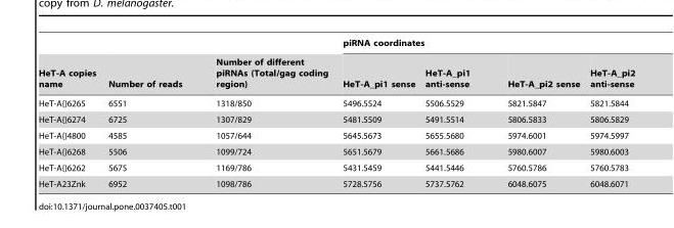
<table><thead><tr><td rowspan="2">HeT-A copies name</td><td rowspan="2">Number of reads</td><td rowspan="2">Number of different piRNAs (Total/gag coding region)</td><td colspan="4">piRNA coordinates</td></tr><tr><td>HeT-A_pi1 sense</td><td>HeT-A_pi1 anti-sense</td><td>HeT-A_pi2 sense</td><td>HeT-A_pi2 anti-sense</td></tr></thead><tbody><tr><td>HeT-A{}6265</td><td>6551</td><td>1318/850</td><td>5496.5524</td><td>5506.5529</td><td>5821.5847</td><td>5821.5844</td></tr><tr><td>HeT-A{}6274</td><td>6725</td><td>1307/829</td><td>5481.5509</td><td>5491.5514</td><td>5806.5833</td><td>5806.5829</td></tr><tr><td>HeT-A{}4800</td><td>4585</td><td>1057/644</td><td>5645.5673</td><td>5655.5680</td><td>5974.6001</td><td>5974.5997</td></tr><tr><td>HeT-A{}6268</td><td>5506</td><td>1099/724</td><td>5651.5679</td><td>5661.5686</td><td>5980.6007</td><td>5980.6003</td></tr><tr><td>HeT-A{}6262</td><td>5675</td><td>1169/786</td><td>5431.5459</td><td>5441.5446</td><td>5760.5786</td><td>5760.5783</td></tr><tr><td>HeT-A23Znk</td><td>6952</td><td>1098/786</td><td>5728.5756</td><td>5737.5762</td><td>6048.6075</td><td>6048.6071</td></tr></tbody></table>